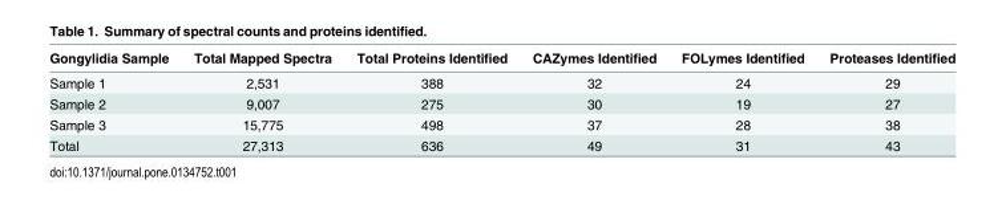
<table><thead><tr><td>Gongylidia Sample</td><td>Total Mapped Spectra</td><td>Total Proteins Identified</td><td>CAZymes Identified</td><td>FOLymes Identified</td><td>Proteases Identified</td></tr></thead><tbody><tr><td>Sample 1</td><td>2,531</td><td>388</td><td>32</td><td>24</td><td>29</td></tr><tr><td>Sample 2</td><td>9,007</td><td>275</td><td>30</td><td>19</td><td>27</td></tr><tr><td>Sample 3</td><td>15,775</td><td>498</td><td>37</td><td>28</td><td>38</td></tr><tr><td>Total</td><td>27,313</td><td>636</td><td>49</td><td>31</td><td>43</td></tr></tbody></table>